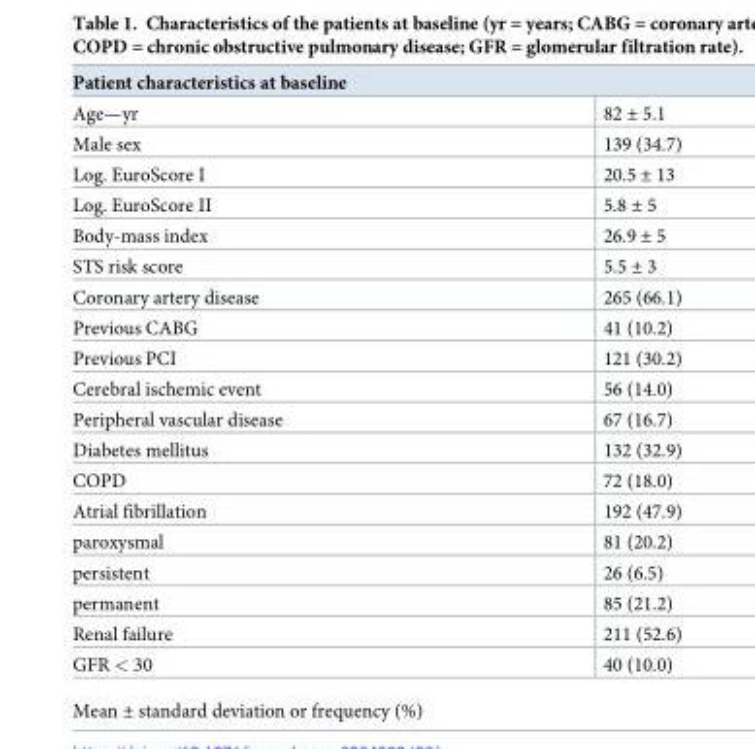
<table><thead><tr><td colspan="2">Patient characteristics at baseline</td></tr><tr><td>Age—yr</td><td>82 ± 5.1</td></tr></thead><tbody><tr><td>Male sex</td><td>139 (34.7)</td></tr><tr><td>Log. EuroScore I</td><td>20.5 ± 13</td></tr><tr><td>Log. EuroScore II</td><td>5.8 ± 5</td></tr><tr><td>Body-mass index</td><td>26.9 ± 5</td></tr><tr><td>STS risk score</td><td>5.5 ± 3</td></tr><tr><td>Coronary artery disease</td><td>265 (66.1)</td></tr><tr><td>Previous CABG</td><td>41 (10.2)</td></tr><tr><td>Previous PCI</td><td>121 (30.2)</td></tr><tr><td>Cerebral ischemic event</td><td>56 (14.0)</td></tr><tr><td>Peripheral vascular disease</td><td>67 (16.7)</td></tr><tr><td>Diabetes mellitus</td><td>132 (32.9)</td></tr><tr><td>COPD</td><td>72 (18.0)</td></tr><tr><td>Atrial fibrillation</td><td>192 (47.9)</td></tr><tr><td>paroxysmal</td><td>81 (20.2)</td></tr><tr><td>persistent</td><td>26 (6.5)</td></tr><tr><td>permanent</td><td>85 (21.2)</td></tr><tr><td>Renal failure</td><td>211 (52.6)</td></tr><tr><td>GFR &lt; 30</td><td>40 (10.0)</td></tr></tbody></table>